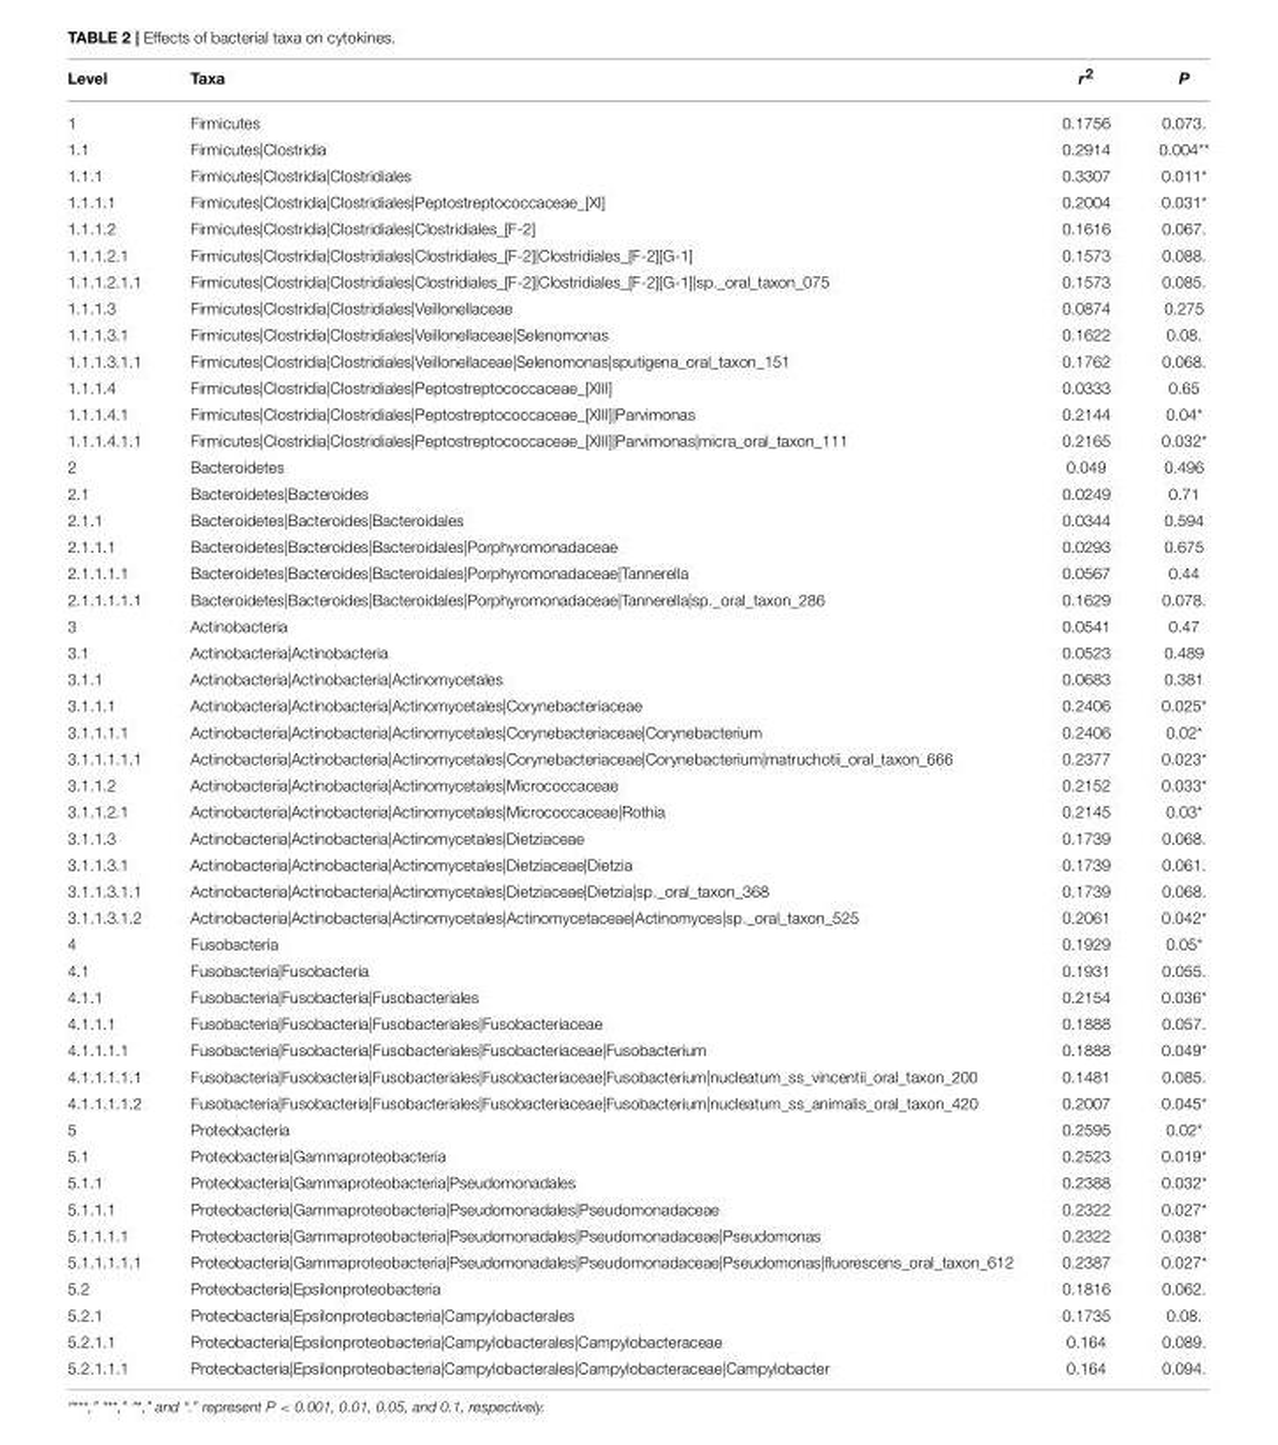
<table><thead><tr><td>Level</td><td>Taxa</td><td>r<sup>2</sup></td><td>P</td></tr></thead><tbody><tr><td>1</td><td>Firmicutes</td><td>0.1756</td><td>0.073.</td></tr><tr><td>1.1</td><td>Firmicutes|Clostridia</td><td>0.2914</td><td>0.004**</td></tr><tr><td>1.1.1</td><td>Firmicutes|Clostridia|Clostridiales</td><td>0.3307</td><td>0.011*</td></tr><tr><td>1.1.1.1</td><td>Firmicutes|Clostridia|Clostridiales|Peptostreptococcaceae_[XI]</td><td>0.2004</td><td>0.031*</td></tr><tr><td>1.1.1.2</td><td>Firmicutes|Clostridia|Clostridiales|Clostridiales_[F-2]</td><td>0.1616</td><td>0.067.</td></tr><tr><td>1.1.1.2.1</td><td>Firmicutes|Clostridia|Clostridiales|Clostridiales_[F-2]|Clostridiales_[F-2][G-1]</td><td>0.1573</td><td>0.088.</td></tr><tr><td>1.1.1.2.1.1</td><td>Firmicutes|Clostridia|Clostridiales|Clostridiales_[F-2]|Clostridiales_[F-2][G-1]|sp._oral_taxon_075</td><td>0.1573</td><td>0.085.</td></tr><tr><td>1.1.1.3</td><td>Firmicutes|Clostridia|Clostridiales|Veillonellaceae</td><td>0.0874</td><td>0.275</td></tr><tr><td>1.1.1.3.1</td><td>Firmicutes|Clostridia|Clostridiales|Veillonellaceae|Selenomonas</td><td>0.1622</td><td>0.08.</td></tr><tr><td>1.1.1.3.1.1</td><td>Firmicutes|Clostridia|Clostridiales|Veillonellaceae|Selenomonas|sputigena_oral_taxon_151</td><td>0.1762</td><td>0.068.</td></tr><tr><td>1.1.1.4</td><td>Firmicutes|Clostridia|Clostridiales|Peptostreptococcaceae_[XIII]</td><td>0.0333</td><td>0.65</td></tr><tr><td>1.1.1.4.1</td><td>Firmicutes|Clostridia|Clostridiales|Peptostreptococcaceae_[XIII]|Parvimonas</td><td>0.2144</td><td>0.04*</td></tr><tr><td>1.1.1.4.1.1</td><td>Firmicutes|Clostridia|Clostridiales|Peptostreptococcaceae_[XIII]|Parvimonas|micra_oral_taxon_111</td><td>0.2165</td><td>0.032*</td></tr><tr><td>2</td><td>Bacteroidetes</td><td>0.049</td><td>0.496</td></tr><tr><td>2.1</td><td>Bacteroidetes|Bacteroides</td><td>0.0249</td><td>0.71</td></tr><tr><td>2.1.1</td><td>Bacteroidetes|Bacteroides|Bacteroidales</td><td>0.0344</td><td>0.594</td></tr><tr><td>2.1.1.1</td><td>Bacteroidetes|Bacteroides|Bacteroidales|Porphyromonadaceae</td><td>0.0293</td><td>0.675</td></tr><tr><td>2.1.1.1.1</td><td>Bacteroidetes|Bacteroides|Bacteroidales|Porphyromonadaceae|Tannerella</td><td>0.0567</td><td>0.44</td></tr><tr><td>2.1.1.1.1.1</td><td>Bacteroidetes|Bacteroides|Bacteroidales|Porphyromonadaceae|Tannerella|sp._oral_taxon_286</td><td>0.1629</td><td>0.078.</td></tr><tr><td>3</td><td>Actinobacteria</td><td>0.0541</td><td>0.47</td></tr><tr><td>3.1</td><td>Actinobacteria|Actinobacteria</td><td>0.0523</td><td>0.489</td></tr><tr><td>3.1.1</td><td>Actinobacteria|Actinobacteria|Actinomycetales</td><td>0.0683</td><td>0.381</td></tr><tr><td>3.1.1.1</td><td>Actinobacteria|Actinobacteria|Actinomycetales|Corynebacteriaceae</td><td>0.2406</td><td>0.025*</td></tr><tr><td>3.1.1.1.1</td><td>Actinobacteria|Actinobacteria|Actinomycetales|Corynebacteriaceae|Corynebacterium</td><td>0.2406</td><td>0.02*</td></tr><tr><td>3.1.1.1.1.1</td><td>Actinobacteria|Actinobacteria|Actinomycetales|Corynebacteriaceae|Corynebacterium|matruchotii_oral_taxon_666</td><td>0.2377</td><td>0.023*</td></tr><tr><td>3.1.1.2</td><td>Actinobacteria|Actinobacteria|Actinomycetales|Micrococcaceae</td><td>0.2152</td><td>0.033*</td></tr><tr><td>3.1.1.2.1</td><td>Actinobacteria|Actinobacteria|Actinomycetales|Micrococcaceae|Rothia</td><td>0.2145</td><td>0.03*</td></tr><tr><td>3.1.1.3</td><td>Actinobacteria|Actinobacteria|Actinomycetales|Dietziaceae</td><td>0.1739</td><td>0.068.</td></tr><tr><td>3.1.1.3.1</td><td>Actinobacteria|Actinobacteria|Actinomycetales|Dietziaceae|Dietzia</td><td>0.1739</td><td>0.061.</td></tr><tr><td>3.1.1.3.1.1</td><td>Actinobacteria|Actinobacteria|Actinomycetales|Dietziaceae|Dietzia|sp._oral_taxon_368</td><td>0.1739</td><td>0.068.</td></tr><tr><td>3.1.1.3.1.2</td><td>Actinobacteria|Actinobacteria|Actinomycetales|Actinomycetaceae|Actinomyces|sp._oral_taxon_525</td><td>0.2061</td><td>0.042*</td></tr><tr><td>4</td><td>Fusobacteria</td><td>0.1929</td><td>0.05*</td></tr><tr><td>4.1</td><td>Fusobacteria|Fusobacteria</td><td>0.1931</td><td>0.055.</td></tr><tr><td>4.1.1</td><td>Fusobacteria|Fusobacteria|Fusobacteriales</td><td>0.2154</td><td>0.036*</td></tr><tr><td>4.1.1.1</td><td>Fusobacteria|Fusobacteria|Fusobacteriales|Fusobacteriaceae</td><td>0.1888</td><td>0.057.</td></tr><tr><td>4.1.1.1.1</td><td>Fusobacteria|Fusobacteria|Fusobacteriales|Fusobacteriaceae|Fusobacterium</td><td>0.1888</td><td>0.049*</td></tr><tr><td>4.1.1.1.1.1</td><td>Fusobacteria|Fusobacteria|Fusobacteriales|Fusobacteriaceae|Fusobacterium|nucleatum_ss_vincentii_oral_taxon_200</td><td>0.1481</td><td>0.085.</td></tr><tr><td>4.1.1.1.1.2</td><td>Fusobacteria|Fusobacteria|Fusobacteriales|Fusobacteriaceae|Fusobacterium|nucleatum_ss_animalis_oral_taxon_420</td><td>0.2007</td><td>0.045*</td></tr><tr><td>5</td><td>Proteobacteria</td><td>0.2595</td><td>0.02*</td></tr><tr><td>5.1</td><td>Proteobacteria|Gammaproteobacteria</td><td>0.2523</td><td>0.019*</td></tr><tr><td>5.1.1</td><td>Proteobacteria|Gammaproteobacteria|Pseudomonadales</td><td>0.2388</td><td>0.032*</td></tr><tr><td>5.1.1.1</td><td>Proteobacteria|Gammaproteobacteria|Pseudomonadales|Pseudomonadaceae</td><td>0.2322</td><td>0.027*</td></tr><tr><td>5.1.1.1.1</td><td>Proteobacteria|Gammaproteobacteria|Pseudomonadales|Pseudomonadaceae|Pseudomonas</td><td>0.2322</td><td>0.038*</td></tr><tr><td>5.1.1.1.1.1</td><td>Proteobacteria|Gammaproteobacteria|Pseudomonadales|Pseudomonadaceae|Pseudomonas|fluorescens_oral_taxon_612</td><td>0.2387</td><td>0.027*</td></tr><tr><td>5.2</td><td>Proteobacteria|Epsilonproteobacteria</td><td>0.1816</td><td>0.062.</td></tr><tr><td>5.2.1</td><td>Proteobacteria|Epsilonproteobacteria|Campylobacterales</td><td>0.1735</td><td>0.08.</td></tr><tr><td>5.2.1.1</td><td>Proteobacteria|Epsilonproteobacteria|Campylobacterales|Campylobacteraceae</td><td>0.164</td><td>0.089.</td></tr><tr><td>5.2.1.1.1</td><td>Proteobacteria|Epsilonproteobacteria|Campylobacterales|Campylobacteraceae|Campylobacter</td><td>0.164</td><td>0.094.</td></tr></tbody></table>